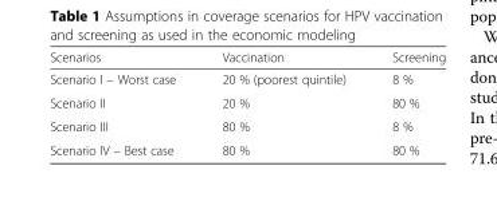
<table><thead><tr><td>Scenarios</td><td>Vaccination</td><td>Screening</td></tr></thead><tbody><tr><td>Scenario I – Worst case</td><td>20 % (poorest quintile)</td><td>8 %</td></tr><tr><td>Scenario II</td><td>20 %</td><td>80 %</td></tr><tr><td>Scenario III</td><td>80 %</td><td>8 %</td></tr><tr><td>Scenario IV – Best case</td><td>80 %</td><td>80 %</td></tr></tbody></table>